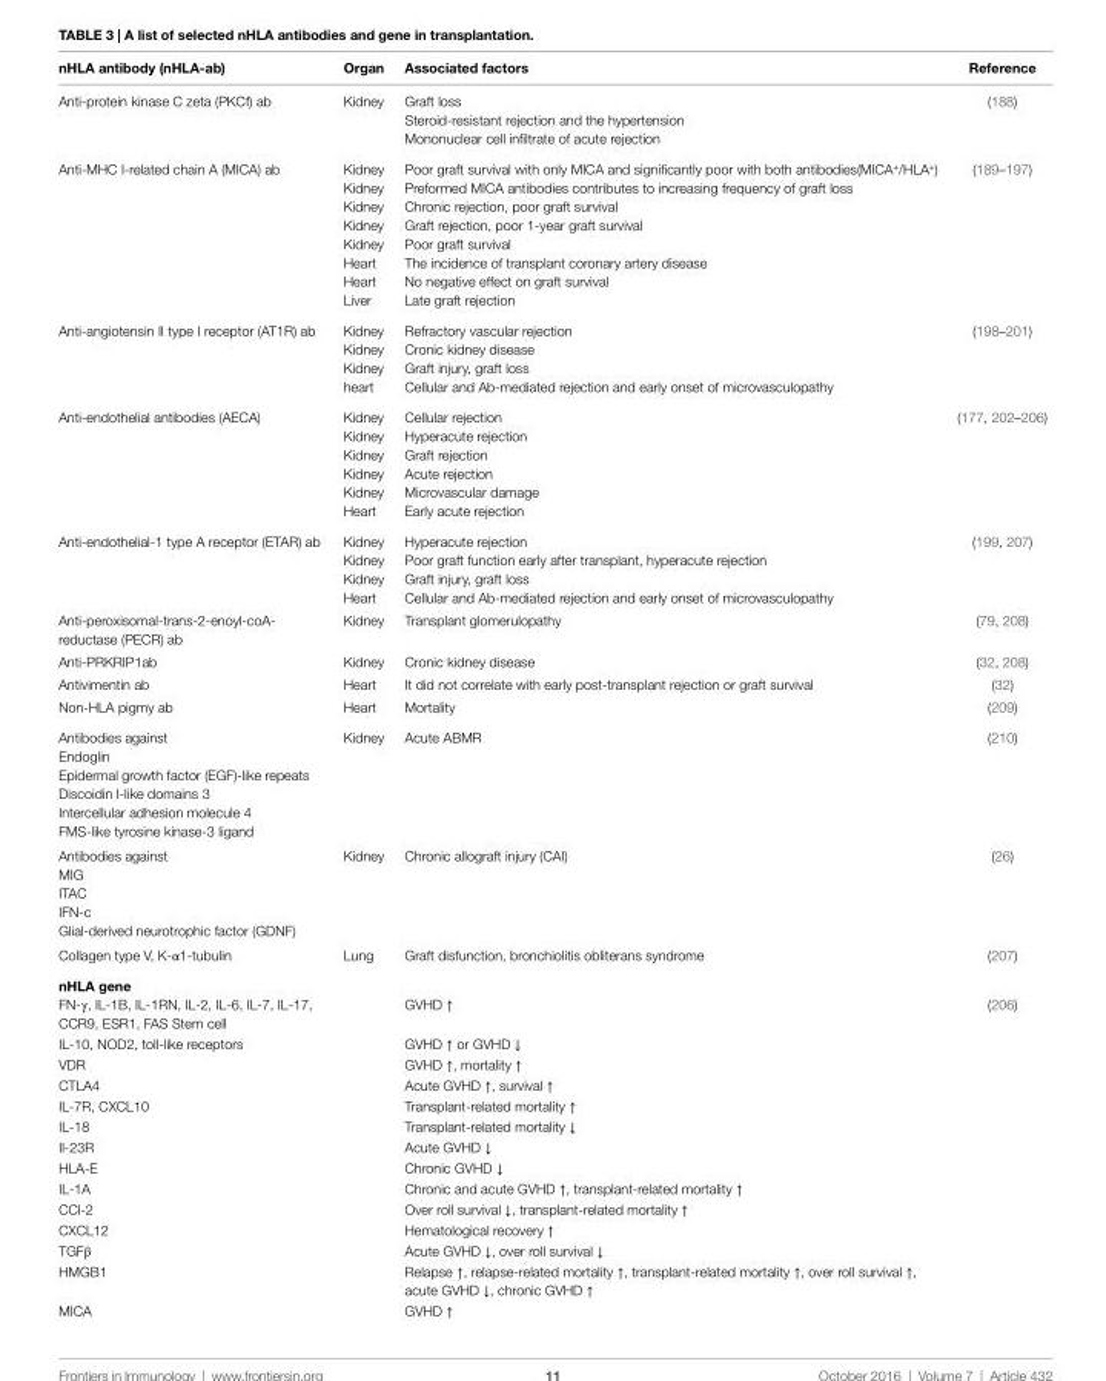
<table><thead><tr><td>nHLA antibody (nHLA-ab)</td><td>Organ</td><td>Associated factors</td><td>Reference</td></tr></thead><tbody><tr><td rowspan="3">Anti-protein kinase C zeta (PKCf) ab</td><td rowspan="3">Kidney</td><td>Graft loss</td><td rowspan="3">(188)</td></tr><tr><td>Steroid-resistant rejection and the hypertension</td></tr><tr><td>Mononuclear cell infiltrate of acute rejection</td></tr><tr><td rowspan="8">Anti-MHC I-related chain A (MICA) ab</td><td>Kidney</td><td>Poor graft survival with only MICA and significantly poor with both antibodies(MICA<sup>+</sup>/HLA<sup>+</sup>)</td><td>(189–197)</td></tr><tr><td>Kidney</td><td>Preformed MICA antibodies contributes to increasing frequency of graft loss</td><td></td></tr><tr><td>Kidney</td><td>Chronic rejection, poor graft survival</td><td></td></tr><tr><td>Kidney</td><td>Graft rejection, poor 1-year graft survival</td><td></td></tr><tr><td>Kidney</td><td>Poor graft survival</td><td></td></tr><tr><td>Heart</td><td>The incidence of transplant coronary artery disease</td><td></td></tr><tr><td>Heart</td><td>No negative effect on graft survival</td><td></td></tr><tr><td>Liver</td><td>Late graft rejection</td><td></td></tr><tr><td rowspan="4">Anti-angiotensin II type I receptor (AT1R) ab</td><td>Kidney</td><td>Refractory vascular rejection</td><td>(198–201)</td></tr><tr><td>Kidney</td><td>Cronic kidney disease</td><td></td></tr><tr><td>Kidney</td><td>Graft injury, graft loss</td><td></td></tr><tr><td>heart</td><td>Cellular and Ab-mediated rejection and early onset of microvasculopathy</td><td></td></tr><tr><td rowspan="6">Anti-endothelial antibodies (AECA)</td><td>Kidney</td><td>Cellular rejection</td><td>(177, 202–206)</td></tr><tr><td>Kidney</td><td>Hyperacute rejection</td><td></td></tr><tr><td>Kidney</td><td>Graft rejection</td><td></td></tr><tr><td>Kidney</td><td>Acute rejection</td><td></td></tr><tr><td>Kidney</td><td>Microvascular damage</td><td></td></tr><tr><td>Heart</td><td>Early acute rejection</td><td></td></tr><tr><td rowspan="4">Anti-endothelial-1 type A receptor (ETAR) ab</td><td>Kidney</td><td>Hyperacute rejection</td><td>(199, 207)</td></tr><tr><td>Kidney</td><td>Poor graft function early after transplant, hyperacute rejection</td><td></td></tr><tr><td>Kidney</td><td>Graft injury, graft loss</td><td></td></tr><tr><td>Heart</td><td>Cellular and Ab-mediated rejection and early onset of microvasculopathy</td><td></td></tr><tr><td>Anti-peroxisomal-trans-2-enoyl-coA- reductase (PECR) ab</td><td>Kidney</td><td>Transplant glomerulopathy</td><td>(79, 208)</td></tr><tr><td>Anti-PRKRIP1ab</td><td>Kidney</td><td>Cronic kidney disease</td><td>(32, 208)</td></tr><tr><td>Antivimentin ab</td><td>Heart</td><td>It did not correlate with early post-transplant rejection or graft survival</td><td>(32)</td></tr><tr><td>Non-HLA pigmy ab</td><td>Heart</td><td>Mortality</td><td>(209)</td></tr><tr><td>Antibodies against</td><td>Kidney</td><td>Acute ABMR</td><td>(210)</td></tr><tr><td colspan="4">Endoglin</td></tr><tr><td colspan="4">Epidermal growth factor (EGF)-like repeats</td></tr><tr><td colspan="4">Discoidin I-like domains 3</td></tr><tr><td colspan="4">Intercellular adhesion molecule 4</td></tr><tr><td colspan="4">FMS-like tyrosine kinase-3 ligand</td></tr><tr><td>Antibodies against</td><td>Kidney</td><td>Chronic allograft injury (CAI)</td><td>(26)</td></tr><tr><td colspan="4">MIG</td></tr><tr><td colspan="4">ITAC</td></tr><tr><td colspan="4">IFN-c</td></tr><tr><td colspan="4">Glial-derived neurotrophic factor (GDNF)</td></tr><tr><td>Collagen type V, K-α1-tubulin</td><td>Lung</td><td>Graft disfunction, bronchiolitis obliterans syndrome</td><td>(207)</td></tr><tr><td colspan="4">nHLA gene</td></tr><tr><td>FN-γ, IL-1B, IL-1RN, IL-2, IL-6, IL-7, IL-17, CCR9, ESR1, FAS Stem cell</td><td></td><td>GVHD ↑</td><td rowspan="13">(206)</td></tr><tr><td>IL-10, NOD2, toll-like receptors</td><td></td><td>GVHD ↑ or GVHD ↓</td></tr><tr><td>VDR</td><td></td><td>GVHD ↑, mortality ↑</td></tr><tr><td>CTLA4</td><td></td><td>Acute GVHD ↑, survival ↑</td></tr><tr><td>IL-7R, CXCL10</td><td></td><td>Transplant-related mortality ↑</td></tr><tr><td>IL-18</td><td></td><td>Transplant-related mortality ↓</td></tr><tr><td>Il-23R</td><td></td><td>Acute GVHD ↓</td></tr><tr><td>HLA-E</td><td></td><td>Chronic GVHD ↓</td></tr><tr><td>IL-1A</td><td></td><td>Chronic and acute GVHD ↑, transplant-related mortality ↑</td></tr><tr><td>CCl-2</td><td></td><td>Over roll survival ↓, transplant-related mortality ↑</td></tr><tr><td>CXCL12</td><td></td><td>Hematological recovery ↑</td></tr><tr><td>TGFβ</td><td></td><td>Acute GVHD ↓, over roll survival ↓</td></tr><tr><td>HMGB1</td><td></td><td>Relapse ↑, relapse-related mortality ↑, transplant-related mortality ↑, over roll survival ↑, acute GVHD ↓, chronic GVHD ↑</td></tr><tr><td>MICA</td><td></td><td>GVHD ↑</td><td></td></tr></tbody></table>